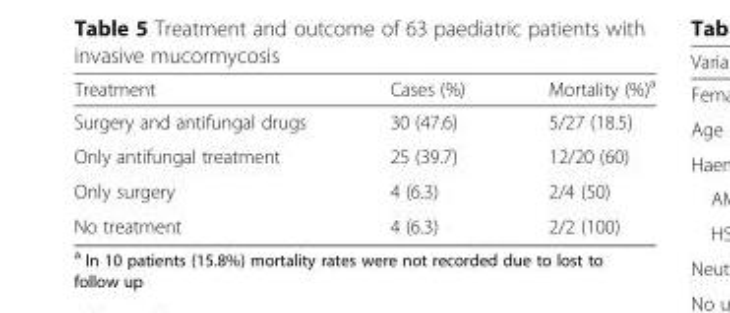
<table><thead><tr><td>Treatment</td><td>Cases (%)</td><td>Mortality (%)<sup>a</sup></td></tr></thead><tbody><tr><td>Surgery and antifungal drugs</td><td>30 (47.6)</td><td>5/27 (18.5)</td></tr><tr><td>Only antifungal treatment</td><td>25 (39.7)</td><td>12/20 (60)</td></tr><tr><td>Only surgery</td><td>4 (6.3)</td><td>2/4 (50)</td></tr><tr><td>No treatment</td><td>4 (6.3)</td><td>2/2 (100)</td></tr></tbody></table>